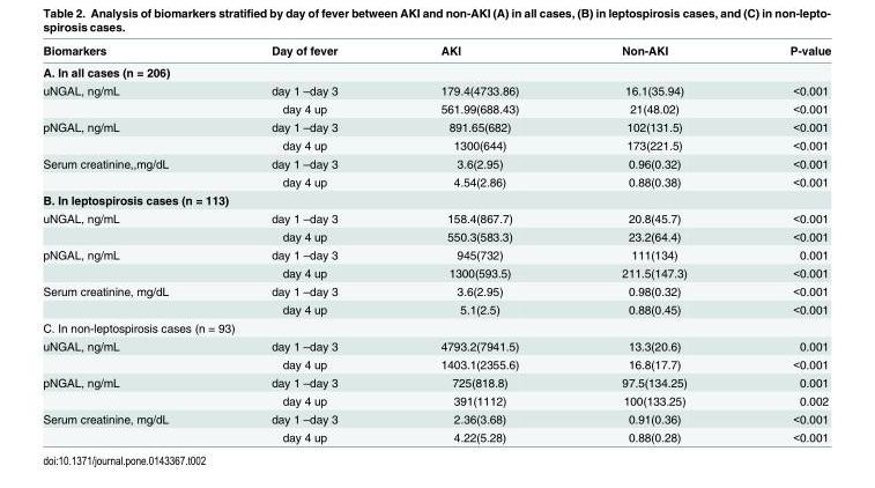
<table><thead><tr><td>Biomarkers</td><td>Day of fever</td><td>AKI</td><td>Non-AKI</td><td>P-value</td></tr></thead><tbody><tr><td colspan="5">A. In all cases (n = 206)</td></tr><tr><td rowspan="2">uNGAL, ng/mL</td><td>day 1 –day 3</td><td>179.4(4733.86)</td><td>16.1(35.94)</td><td>&lt;0.001</td></tr><tr><td>day 4 up</td><td>561.99(688.43)</td><td>21(48.02)</td><td>&lt;0.001</td></tr><tr><td rowspan="2">pNGAL, ng/mL</td><td>day 1 –day 3</td><td>891.65(682)</td><td>102(131.5)</td><td>&lt;0.001</td></tr><tr><td>day 4 up</td><td>1300(644)</td><td>173(221.5)</td><td>&lt;0.001</td></tr><tr><td rowspan="2">Serum creatinine,,mg/dL</td><td>day 1 –day 3</td><td>3.6(2.95)</td><td>0.96(0.32)</td><td>&lt;0.001</td></tr><tr><td>day 4 up</td><td>4.54(2.86)</td><td>0.88(0.38)</td><td>&lt;0.001</td></tr><tr><td colspan="5">B. In leptospirosis cases (n = 113)</td></tr><tr><td rowspan="2">uNGAL, ng/mL</td><td>day 1 –day 3</td><td>158.4(867.7)</td><td>20.8(45.7)</td><td>&lt;0.001</td></tr><tr><td>day 4 up</td><td>550.3(583.3)</td><td>23.2(64.4)</td><td>&lt;0.001</td></tr><tr><td rowspan="2">pNGAL, ng/mL</td><td>day 1 –day 3</td><td>945(732)</td><td>111(134)</td><td>0.001</td></tr><tr><td>day 4 up</td><td>1300(593.5)</td><td>211.5(147.3)</td><td>&lt;0.001</td></tr><tr><td rowspan="2">Serum creatinine, mg/dL</td><td>day 1 –day 3</td><td>3.6(2.95)</td><td>0.98(0.32)</td><td>&lt;0.001</td></tr><tr><td>day 4 up</td><td>5.1(2.5)</td><td>0.88(0.45)</td><td>&lt;0.001</td></tr><tr><td colspan="5">C. In non-leptospirosis cases (n = 93)</td></tr><tr><td rowspan="2">uNGAL, ng/mL</td><td>day 1 –day 3</td><td>4793.2(7941.5)</td><td>13.3(20.6)</td><td>0.001</td></tr><tr><td>day 4 up</td><td>1403.1(2355.6)</td><td>16.8(17.7)</td><td>&lt;0.001</td></tr><tr><td rowspan="2">pNGAL, ng/mL</td><td>day 1 –day 3</td><td>725(818.8)</td><td>97.5(134.25)</td><td>0.001</td></tr><tr><td>day 4 up</td><td>391(1112)</td><td>100(133.25)</td><td>0.002</td></tr><tr><td rowspan="2">Serum creatinine, mg/dL</td><td>day 1 –day 3</td><td>2.36(3.68)</td><td>0.91(0.36)</td><td>&lt;0.001</td></tr><tr><td>day 4 up</td><td>4.22(5.28)</td><td>0.88(0.28)</td><td>&lt;0.001</td></tr></tbody></table>